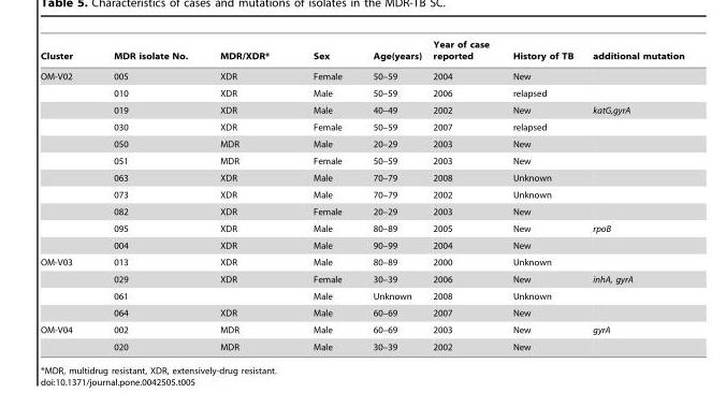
<table><thead><tr><td>Cluster</td><td>MDR isolate No.</td><td>MDR/XDR*</td><td>Sex</td><td>Age(years)</td><td>Year of case reported</td><td>History of TB</td><td>additional mutation</td></tr></thead><tbody><tr><td rowspan="11">OM-V02</td><td>005</td><td>XDR</td><td>Female</td><td>50–59</td><td>2004</td><td>New</td><td></td></tr><tr><td>010</td><td>XDR</td><td>Male</td><td>50–59</td><td>2006</td><td>relapsed</td><td></td></tr><tr><td>019</td><td>XDR</td><td>Male</td><td>40–49</td><td>2002</td><td>New</td><td>katG,gyrA</td></tr><tr><td>030</td><td>XDR</td><td>Female</td><td>50–59</td><td>2007</td><td>relapsed</td><td></td></tr><tr><td>050</td><td>MDR</td><td>Male</td><td>20–29</td><td>2003</td><td>New</td><td></td></tr><tr><td>051</td><td>MDR</td><td>Female</td><td>50–59</td><td>2003</td><td>New</td><td></td></tr><tr><td>063</td><td>XDR</td><td>Male</td><td>70–79</td><td>2008</td><td>Unknown</td><td></td></tr><tr><td>073</td><td>XDR</td><td>Male</td><td>70–79</td><td>2002</td><td>Unknown</td><td></td></tr><tr><td>082</td><td>XDR</td><td>Female</td><td>20–29</td><td>2003</td><td>New</td><td></td></tr><tr><td>095</td><td>XDR</td><td>Male</td><td>80–89</td><td>2005</td><td>New</td><td>rpoB</td></tr><tr><td>004</td><td>XDR</td><td>Male</td><td>90–99</td><td>2004</td><td>New</td><td></td></tr><tr><td rowspan="4">OM-V03</td><td>013</td><td>XDR</td><td>Male</td><td>80–89</td><td>2000</td><td>Unknown</td><td></td></tr><tr><td>029</td><td>XDR</td><td>Female</td><td>30–39</td><td>2006</td><td>New</td><td>inhA, gyrA</td></tr><tr><td>061</td><td></td><td>Male</td><td>Unknown</td><td>2008</td><td>Unknown</td><td></td></tr><tr><td>064</td><td>XDR</td><td>Male</td><td>60–69</td><td>2007</td><td>New</td><td></td></tr><tr><td rowspan="2">OM-V04</td><td>002</td><td>MDR</td><td>Male</td><td>60–69</td><td>2003</td><td>New</td><td>gyrA</td></tr><tr><td>020</td><td>MDR</td><td>Male</td><td>30–39</td><td>2002</td><td>New</td><td></td></tr></tbody></table>